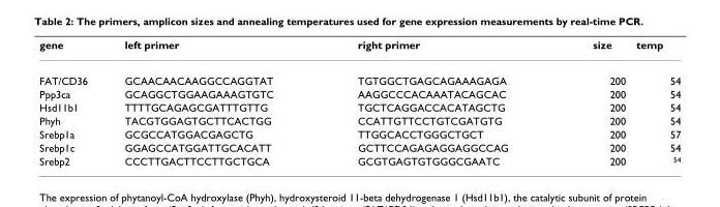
<table><thead><tr><td>gene</td><td>left primer</td><td>right primer</td><td>size</td><td>temp</td></tr></thead><tbody><tr><td>FAT/CD36</td><td>GCAACAACAAGGCCAGGTAT</td><td>TGTGGCTGAGCAGAAAGAGA</td><td>200</td><td>54</td></tr><tr><td>Ppp3ca</td><td>GCAGGCTGGAAGAAAGTGTC</td><td>AAGGCCCACAAATACAGCAC</td><td>200</td><td>54</td></tr><tr><td>Hsd11b1</td><td>TTTTGCAGAGCGATTTGTTG</td><td>TGCTCAGGACCACATAGCTG</td><td>200</td><td>54</td></tr><tr><td>Phyh</td><td>TACGTGGAGTGCTTCACTGG</td><td>CCATTGTTCCTGTCGATGTG</td><td>200</td><td>54</td></tr><tr><td>Srebp1a</td><td>GCGCCATGGACGAGCTG</td><td>TTGGCACCTGGGCTGCT</td><td>200</td><td>57</td></tr><tr><td>Srebp1c</td><td>GGAGCCATGGATTGCACATT</td><td>GCTTCCAGAGAGGAGGCCAG</td><td>200</td><td>54</td></tr><tr><td>Srebp2</td><td>CCCTTGACTTCCTTGCTGCA</td><td>GCGTGAGTGTGGGCGAATC</td><td>200</td><td>54</td></tr></tbody></table>